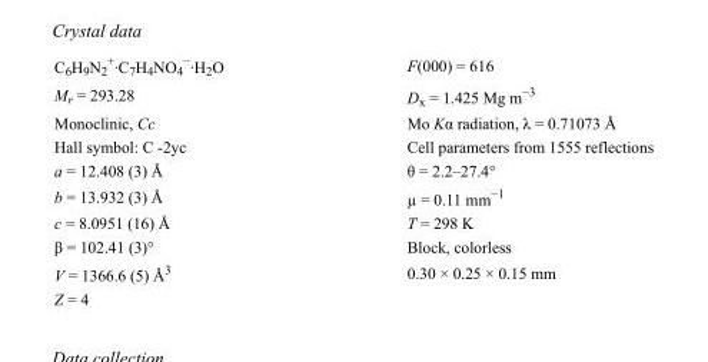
<table><tbody><tr><td>C<sub>6</sub>H<sub>9</sub>N<sub>2</sub> <sup>+</sup>·C<sub>7</sub>H<sub>4</sub>NO<sub>4</sub> <sup>−</sup>·H<sub>2</sub>O</td><td>F(000) = 616</td></tr><tr><td>M<sub>r</sub> = 293.28</td><td>D<sub>x</sub> = 1.425 Mg m<sup>−3</sup></td></tr><tr><td>Monoclinic, Cc</td><td>Mo Kα radiation, λ = 0.71073 Å</td></tr><tr><td>Hall symbol: C -2yc</td><td>Cell parameters from 1555 reflections</td></tr><tr><td>a = 12.408 (3) Å</td><td>θ = 2.2–27.4°</td></tr><tr><td>b = 13.932 (3) Å</td><td>µ = 0.11 mm<sup>−1</sup></td></tr><tr><td>c = 8.0951 (16) Å</td><td>T = 298 K</td></tr><tr><td>β = 102.41 (3)°</td><td>Block, colorless</td></tr><tr><td>V = 1366.6 (5) Å<sup>3</sup></td><td>0.30 × 0.25 × 0.15 mm</td></tr><tr><td>Z = 4</td><td></td></tr></tbody></table>